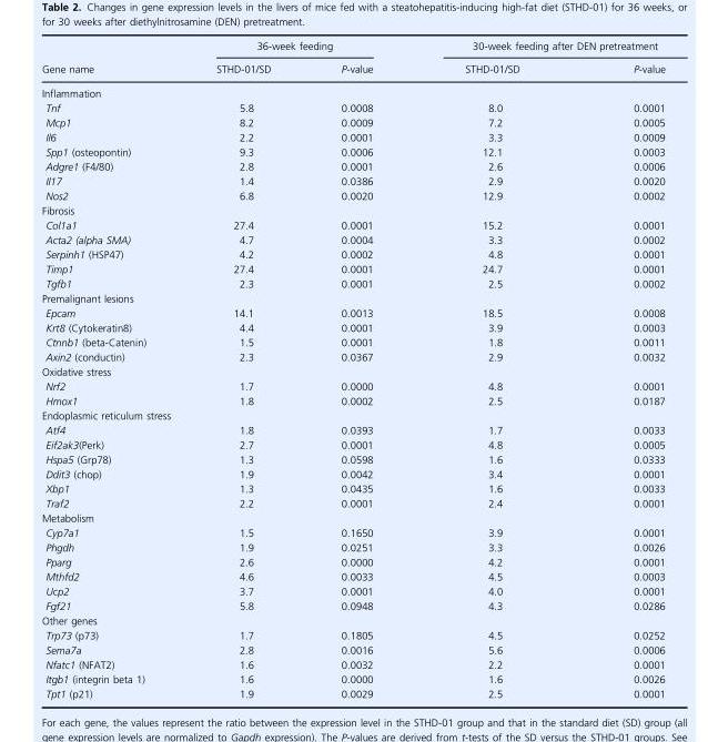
<table><thead><tr><td rowspan="2">Gene name</td><td colspan="2">36-week feeding</td><td colspan="2">30-week feeding after DEN pretreatment</td></tr><tr><td>STHD-01/SD</td><td>P-value</td><td>STHD-01/SD</td><td>P-value</td></tr></thead><tbody><tr><td colspan="5">Inflammation</td></tr><tr><td>Tnf</td><td>5.8</td><td>0.0008</td><td>8.0</td><td>0.0001</td></tr><tr><td>Mcp1</td><td>8.2</td><td>0.0009</td><td>7.2</td><td>0.0005</td></tr><tr><td>Il6</td><td>2.2</td><td>0.0001</td><td>3.3</td><td>0.0009</td></tr><tr><td>Spp1 (osteopontin)</td><td>9.3</td><td>0.0006</td><td>12.1</td><td>0.0003</td></tr><tr><td>Adgre1 (F4/80)</td><td>2.8</td><td>0.0001</td><td>2.6</td><td>0.0006</td></tr><tr><td>Il17</td><td>1.4</td><td>0.0386</td><td>2.9</td><td>0.0020</td></tr><tr><td>Nos2</td><td>6.8</td><td>0.0020</td><td>12.9</td><td>0.0002</td></tr><tr><td colspan="5">Fibrosis</td></tr><tr><td>Col1a1</td><td>27.4</td><td>0.0001</td><td>15.2</td><td>0.0001</td></tr><tr><td>Acta2 (alpha SMA)</td><td>4.7</td><td>0.0004</td><td>3.3</td><td>0.0002</td></tr><tr><td>Serpinh1 (HSP47)</td><td>4.2</td><td>0.0002</td><td>4.8</td><td>0.0001</td></tr><tr><td>Timp1</td><td>27.4</td><td>0.0001</td><td>24.7</td><td>0.0001</td></tr><tr><td>Tgfb1</td><td>2.3</td><td>0.0001</td><td>2.5</td><td>0.0002</td></tr><tr><td colspan="5">Premalignant lesions</td></tr><tr><td>Epcam</td><td>14.1</td><td>0.0013</td><td>18.5</td><td>0.0008</td></tr><tr><td>Krt8 (Cytokeratin8)</td><td>4.4</td><td>0.0001</td><td>3.9</td><td>0.0003</td></tr><tr><td>Ctnnb1 (beta-Catenin)</td><td>1.5</td><td>0.0001</td><td>1.8</td><td>0.0011</td></tr><tr><td>Axin2 (conductin)</td><td>2.3</td><td>0.0367</td><td>2.9</td><td>0.0032</td></tr><tr><td colspan="5">Oxidative stress</td></tr><tr><td>Nrf2</td><td>1.7</td><td>0.0000</td><td>4.8</td><td>0.0001</td></tr><tr><td>Hmox1</td><td>1.8</td><td>0.0002</td><td>2.5</td><td>0.0187</td></tr><tr><td colspan="5">Endoplasmic reticulum stress</td></tr><tr><td>Atf4</td><td>1.8</td><td>0.0393</td><td>1.7</td><td>0.0033</td></tr><tr><td>Eif2ak3(Perk)</td><td>2.7</td><td>0.0001</td><td>4.8</td><td>0.0005</td></tr><tr><td>Hspa5 (Grp78)</td><td>1.3</td><td>0.0598</td><td>1.6</td><td>0.0333</td></tr><tr><td>Ddit3 (chop)</td><td>1.9</td><td>0.0042</td><td>3.4</td><td>0.0001</td></tr><tr><td>Xbp1</td><td>1.3</td><td>0.0435</td><td>1.6</td><td>0.0033</td></tr><tr><td>Traf2</td><td>2.2</td><td>0.0001</td><td>2.4</td><td>0.0001</td></tr><tr><td colspan="5">Metabolism</td></tr><tr><td>Cyp7a1</td><td>1.5</td><td>0.1650</td><td>3.9</td><td>0.0001</td></tr><tr><td>Phgdh</td><td>1.9</td><td>0.0251</td><td>3.3</td><td>0.0026</td></tr><tr><td>Pparg</td><td>2.6</td><td>0.0000</td><td>4.2</td><td>0.0001</td></tr><tr><td>Mthfd2</td><td>4.6</td><td>0.0033</td><td>4.5</td><td>0.0003</td></tr><tr><td>Ucp2</td><td>3.7</td><td>0.0001</td><td>4.0</td><td>0.0001</td></tr><tr><td>Fgf21</td><td>5.8</td><td>0.0948</td><td>4.3</td><td>0.0286</td></tr><tr><td colspan="5">Other genes</td></tr><tr><td>Trp73 (p73)</td><td>1.7</td><td>0.1805</td><td>4.5</td><td>0.0252</td></tr><tr><td>Sema7a</td><td>2.8</td><td>0.0016</td><td>5.6</td><td>0.0006</td></tr><tr><td>Nfatc1 (NFAT2)</td><td>1.6</td><td>0.0032</td><td>2.2</td><td>0.0001</td></tr><tr><td>Itgb1 (integrin beta 1)</td><td>1.6</td><td>0.0000</td><td>1.6</td><td>0.0026</td></tr><tr><td>Tpt1 (p21)</td><td>1.9</td><td>0.0029</td><td>2.5</td><td>0.0001</td></tr></tbody></table>